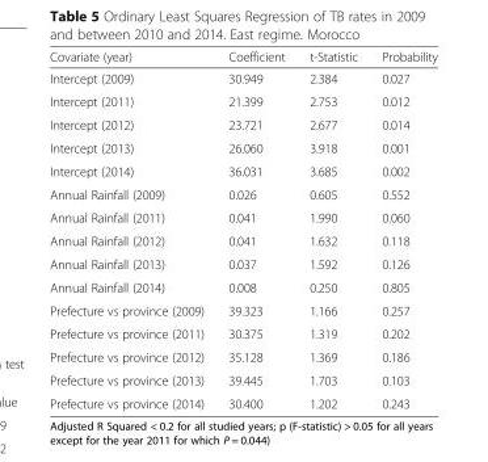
<table><thead><tr><td>Covariate (year)</td><td>Coefficient</td><td>t-Statistic</td><td>Probability</td></tr></thead><tbody><tr><td>Intercept (2009)</td><td>30.949</td><td>2.384</td><td>0.027</td></tr><tr><td>Intercept (2011)</td><td>21.399</td><td>2.753</td><td>0.012</td></tr><tr><td>Intercept (2012)</td><td>23.721</td><td>2.677</td><td>0.014</td></tr><tr><td>Intercept (2013)</td><td>26.060</td><td>3.918</td><td>0.001</td></tr><tr><td>Intercept (2014)</td><td>36.031</td><td>3.685</td><td>0.002</td></tr><tr><td>Annual Rainfall (2009)</td><td>0.026</td><td>0.605</td><td>0.552</td></tr><tr><td>Annual Rainfall (2011)</td><td>0.041</td><td>1.990</td><td>0.060</td></tr><tr><td>Annual Rainfall (2012)</td><td>0.041</td><td>1.632</td><td>0.118</td></tr><tr><td>Annual Rainfall (2013)</td><td>0.037</td><td>1.592</td><td>0.126</td></tr><tr><td>Annual Rainfall (2014)</td><td>0.008</td><td>0.250</td><td>0.805</td></tr><tr><td>Prefecture vs province (2009)</td><td>39.323</td><td>1.166</td><td>0.257</td></tr><tr><td>Prefecture vs province (2011)</td><td>30.375</td><td>1.319</td><td>0.202</td></tr><tr><td>Prefecture vs province (2012)</td><td>35.128</td><td>1.369</td><td>0.186</td></tr><tr><td>Prefecture vs province (2013)</td><td>39.445</td><td>1.703</td><td>0.103</td></tr><tr><td>Prefecture vs province (2014)</td><td>30.400</td><td>1.202</td><td>0.243</td></tr></tbody></table>